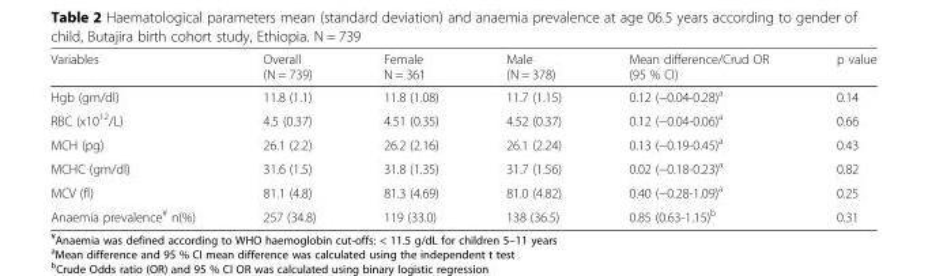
<table><thead><tr><td>Variables</td><td>Overall (N = 739)</td><td>Female N = 361</td><td>Male (N = 378)</td><td>Mean difference/Crud OR (95 % CI)</td><td>p value</td></tr></thead><tbody><tr><td>Hgb (gm/dl)</td><td>11.8 (1.1)</td><td>11.8 (1.08)</td><td>11.7 (1.15)</td><td>0.12 (−0.04-0.28)<sup>a</sup></td><td>0.14</td></tr><tr><td>RBC (x10<sup>12</sup>/L)</td><td>4.5 (0.37)</td><td>4.51 (0.35)</td><td>4.52 (0.37)</td><td>0.12 (−0.04-0.06)<sup>a</sup></td><td>0.66</td></tr><tr><td>MCH (pg)</td><td>26.1 (2.2)</td><td>26.2 (2.16)</td><td>26.1 (2.24)</td><td>0.13 (−0.19-0.45)<sup>a</sup></td><td>0.43</td></tr><tr><td>MCHC (gm/dl)</td><td>31.6 (1.5)</td><td>31.8 (1.35)</td><td>31.7 (1.56)</td><td>0.02 (−0.18-0.23)<sup>a</sup></td><td>0.82</td></tr><tr><td>MCV (fl)</td><td>81.1 (4.8)</td><td>81.3 (4.69)</td><td>81.0 (4.82)</td><td>0.40 (−0.28-1.09)<sup>a</sup></td><td>0.25</td></tr><tr><td>Anaemia prevalence<sup>¥</sup> n(%)</td><td>257 (34.8)</td><td>119 (33.0)</td><td>138 (36.5)</td><td>0.85 (0.63-1.15)<sup>b</sup></td><td>0.31</td></tr></tbody></table>